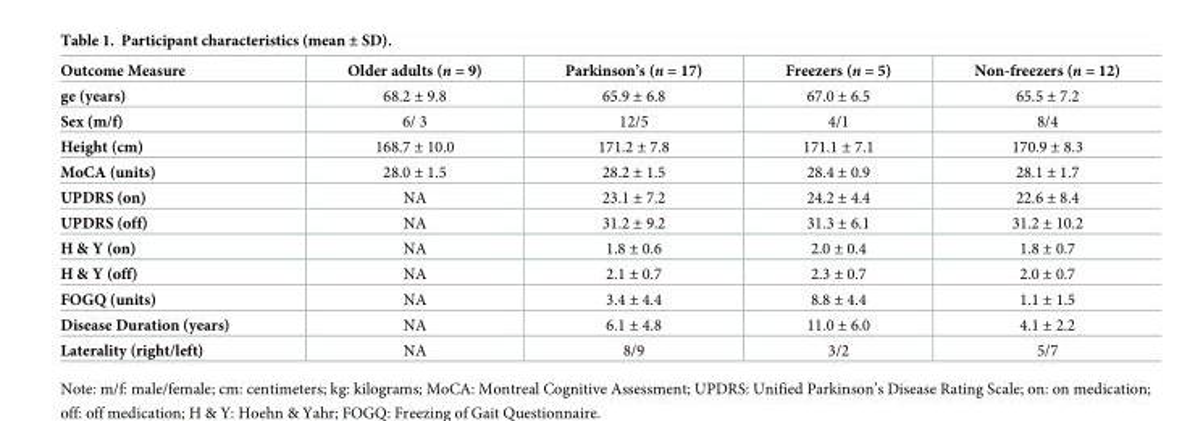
<table><thead><tr><td>Outcome Measure</td><td>Older adults (n = 9)</td><td>Parkinson’s (n = 17)</td><td>Freezers (n = 5)</td><td>Non-freezers (n = 12)</td></tr></thead><tbody><tr><td>ge (years)</td><td>68.2 ± 9.8</td><td>65.9 ± 6.8</td><td>67.0 ± 6.5</td><td>65.5 ± 7.2</td></tr><tr><td>Sex (m/f)</td><td>6/ 3</td><td>12/5</td><td>4/1</td><td>8/4</td></tr><tr><td>Height (cm)</td><td>168.7 ± 10.0</td><td>171.2 ± 7.8</td><td>171.1 ± 7.1</td><td>170.9 ± 8.3</td></tr><tr><td>MoCA (units)</td><td>28.0 ± 1.5</td><td>28.2 ± 1.5</td><td>28.4 ± 0.9</td><td>28.1 ± 1.7</td></tr><tr><td>UPDRS (on)</td><td>NA</td><td>23.1 ± 7.2</td><td>24.2 ± 4.4</td><td>22.6 ± 8.4</td></tr><tr><td>UPDRS (off)</td><td>NA</td><td>31.2 ± 9.2</td><td>31.3 ± 6.1</td><td>31.2 ± 10.2</td></tr><tr><td>H &amp; Y (on)</td><td>NA</td><td>1.8 ± 0.6</td><td>2.0 ± 0.4</td><td>1.8 ± 0.7</td></tr><tr><td>H &amp; Y (off)</td><td>NA</td><td>2.1 ± 0.7</td><td>2.3 ± 0.7</td><td>2.0 ± 0.7</td></tr><tr><td>FOGQ (units)</td><td>NA</td><td>3.4 ± 4.4</td><td>8.8 ± 4.4</td><td>1.1 ± 1.5</td></tr><tr><td>Disease Duration (years)</td><td>NA</td><td>6.1 ± 4.8</td><td>11.0 ± 6.0</td><td>4.1 ± 2.2</td></tr><tr><td>Laterality (right/left)</td><td>NA</td><td>8/9</td><td>3/2</td><td>5/7</td></tr></tbody></table>